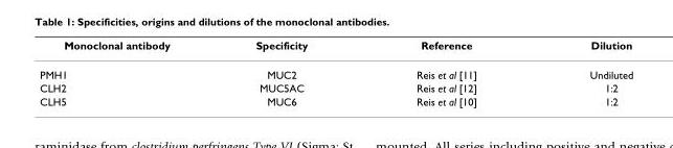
<table><thead><tr><td>Monoclonal antibody</td><td>Specificity</td><td>Reference</td><td>Dilution</td></tr></thead><tbody><tr><td>PMH1</td><td>MUC2</td><td>Reis et al [11]</td><td>Undiluted</td></tr><tr><td>CLH2</td><td>MUC5AC</td><td>Reis et al [12]</td><td>1:2</td></tr><tr><td>CLH5</td><td>MUC6</td><td>Reis et al [10]</td><td>1:2</td></tr></tbody></table>